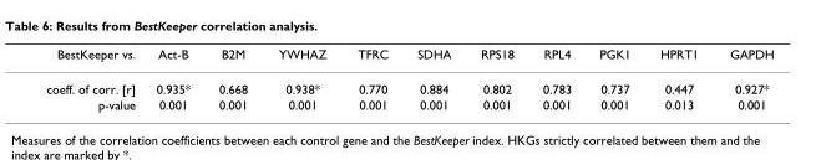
<table><thead><tr><td>BestKeeper vs.</td><td>Act-B</td><td>B2M</td><td>YWHAZ</td><td>TFRC</td><td>SDHA</td><td>RPS18</td><td>RPL4</td><td>PGK1</td><td>HPRT1</td><td>GAPDH</td></tr></thead><tbody><tr><td>coeff. of corr. [r]</td><td>0.935*</td><td>0.668</td><td>0.938*</td><td>0.770</td><td>0.884</td><td>0.802</td><td>0.783</td><td>0.737</td><td>0.447</td><td>0.927*</td></tr><tr><td>p-value</td><td>0.001</td><td>0.001</td><td>0.001</td><td>0.001</td><td>0.001</td><td>0.001</td><td>0.001</td><td>0.001</td><td>0.013</td><td>0.001</td></tr></tbody></table>